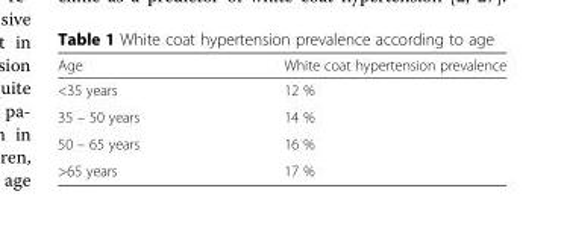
<table><thead><tr><td>Age</td><td>White coat hypertension prevalence</td></tr></thead><tbody><tr><td>&lt;35 years</td><td>12 %</td></tr><tr><td>35 – 50 years</td><td>14 %</td></tr><tr><td>50 – 65 years</td><td>16 %</td></tr><tr><td>&gt;65 years</td><td>17 %</td></tr></tbody></table>